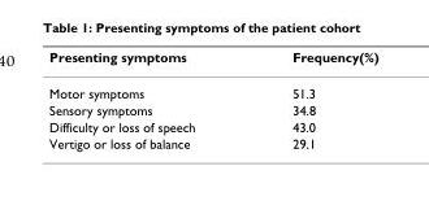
<table><thead><tr><td>Presenting symptoms</td><td>Frequency(%)</td></tr></thead><tbody><tr><td>Motor symptoms</td><td>51.3</td></tr><tr><td>Sensory symptoms</td><td>34.8</td></tr><tr><td>Difficulty or loss of speech</td><td>43.0</td></tr><tr><td>Vertigo or loss of balance</td><td>29.1</td></tr></tbody></table>